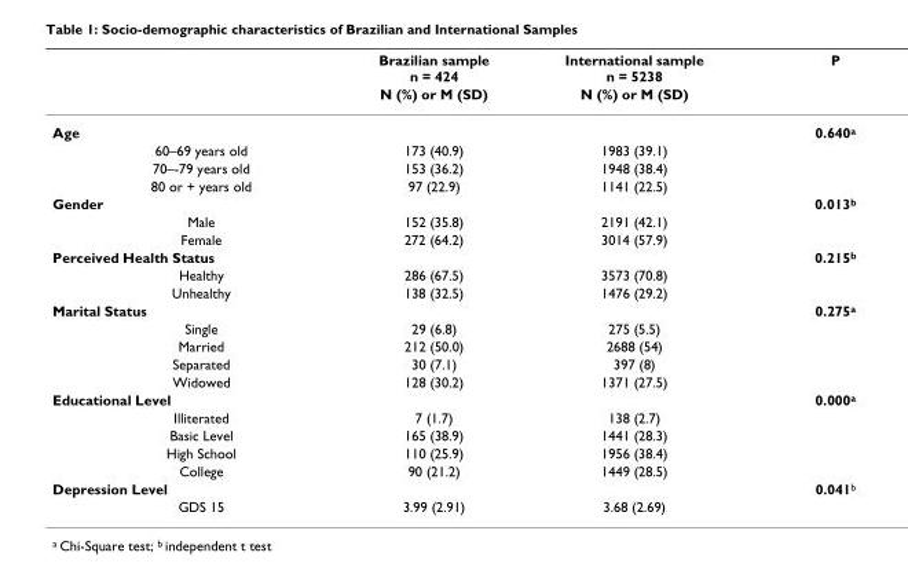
<table><thead><tr><td rowspan="2"></td><td rowspan="2">Brazilian sample n = 424 N (%) or M (SD)</td><td rowspan="2">International sample n = 5238 N (%) or M (SD)</td><td rowspan="2">P</td></tr><tr></tr></thead><tbody><tr><td>Age</td><td></td><td></td><td>0.640<sup>a</sup></td></tr><tr><td>60–69 years old</td><td>173 (40.9)</td><td>1983 (39.1)</td><td></td></tr><tr><td>70–-79 years old</td><td>153 (36.2)</td><td>1948 (38.4)</td><td></td></tr><tr><td>80 or + years old</td><td>97 (22.9)</td><td>1141 (22.5)</td><td></td></tr><tr><td>Gender</td><td></td><td></td><td>0.013<sup>b</sup></td></tr><tr><td>Male</td><td>152 (35.8)</td><td>2191 (42.1)</td><td></td></tr><tr><td>Female</td><td>272 (64.2)</td><td>3014 (57.9)</td><td></td></tr><tr><td>Perceived Health Status</td><td></td><td></td><td>0.215<sup>b</sup></td></tr><tr><td>Healthy</td><td>286 (67.5)</td><td>3573 (70.8)</td><td></td></tr><tr><td>Unhealthy</td><td>138 (32.5)</td><td>1476 (29.2)</td><td></td></tr><tr><td>Marital Status</td><td></td><td></td><td>0.275<sup>a</sup></td></tr><tr><td>Single</td><td>29 (6.8)</td><td>275 (5.5)</td><td></td></tr><tr><td>Married</td><td>212 (50.0)</td><td>2688 (54)</td><td></td></tr><tr><td>Separated</td><td>30 (7.1)</td><td>397 (8)</td><td></td></tr><tr><td>Widowed</td><td>128 (30.2)</td><td>1371 (27.5)</td><td></td></tr><tr><td>Educational Level</td><td></td><td></td><td>0.000<sup>a</sup></td></tr><tr><td>Illiterated</td><td>7 (1.7)</td><td>138 (2.7)</td><td></td></tr><tr><td>Basic Level</td><td>165 (38.9)</td><td>1441 (28.3)</td><td></td></tr><tr><td>High School</td><td>110 (25.9)</td><td>1956 (38.4)</td><td></td></tr><tr><td>College</td><td>90 (21.2)</td><td>1449 (28.5)</td><td></td></tr><tr><td>Depression Level</td><td></td><td></td><td>0.041<sup>b</sup></td></tr><tr><td>GDS 15</td><td>3.99 (2.91)</td><td>3.68 (2.69)</td><td></td></tr></tbody></table>